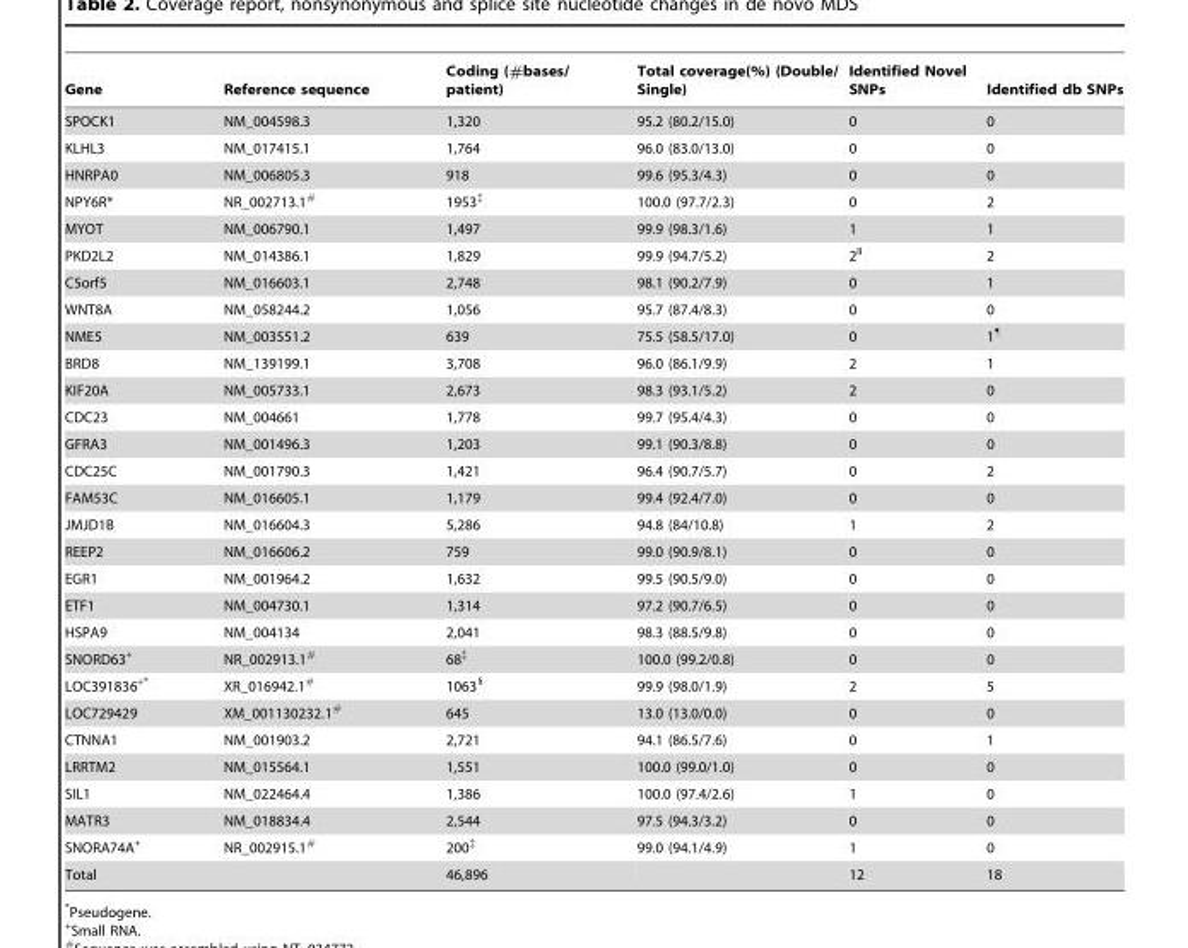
<table><thead><tr><td>Gene</td><td>Reference sequence</td><td>Coding (#bases/ patient)</td><td>Total coverage(%) (Double/ Single)</td><td>Identified Novel SNPs</td><td>Identified db SNPs</td></tr></thead><tbody><tr><td>SPOCK1</td><td>NM_004598.3</td><td>1,320</td><td>95.2 (80.2/15.0)</td><td>0</td><td>0</td></tr><tr><td>KLHL3</td><td>NM_017415.1</td><td>1,764</td><td>96.0 (83.0/13.0)</td><td>0</td><td>0</td></tr><tr><td>HNRPA0</td><td>NM_006805.3</td><td>918</td><td>99.6 (95.3/4.3)</td><td>0</td><td>0</td></tr><tr><td>NPY6R*</td><td>NR_002713.1#</td><td>1953‡</td><td>100.0 (97.7/2.3)</td><td>0</td><td>2</td></tr><tr><td>MYOT</td><td>NM_006790.1</td><td>1,497</td><td>99.9 (98.3/1.6)</td><td>1</td><td>1</td></tr><tr><td>PKD2L2</td><td>NM_014386.1</td><td>1,829</td><td>99.9 (94.7/5.2)</td><td>2<sup>II</sup></td><td>2</td></tr><tr><td>C5orf5</td><td>NM_016603.1</td><td>2,748</td><td>98.1 (90.2/7.9)</td><td>0</td><td>1</td></tr><tr><td>WNT8A</td><td>NM_058244.2</td><td>1,056</td><td>95.7 (87.4/8.3)</td><td>0</td><td>0</td></tr><tr><td>NME5</td><td>NM_003551.2</td><td>639</td><td>75.5 (58.5/17.0)</td><td>0</td><td>1¶</td></tr><tr><td>BRD8</td><td>NM_139199.1</td><td>3,708</td><td>96.0 (86.1/9.9)</td><td>2</td><td>1</td></tr><tr><td>KIF20A</td><td>NM_005733.1</td><td>2,673</td><td>98.3 (93.1/5.2)</td><td>2</td><td>0</td></tr><tr><td>CDC23</td><td>NM_004661</td><td>1,778</td><td>99.7 (95.4/4.3)</td><td>0</td><td>0</td></tr><tr><td>GFRA3</td><td>NM_001496.3</td><td>1,203</td><td>99.1 (90.3/8.8)</td><td>0</td><td>0</td></tr><tr><td>CDC25C</td><td>NM_001790.3</td><td>1,421</td><td>96.4 (90.7/5.7)</td><td>0</td><td>2</td></tr><tr><td>FAM53C</td><td>NM_016605.1</td><td>1,179</td><td>99.4 (92.4/7.0)</td><td>0</td><td>0</td></tr><tr><td>JMJD1B</td><td>NM_016604.3</td><td>5,286</td><td>94.8 (84/10.8)</td><td>1</td><td>2</td></tr><tr><td>REEP2</td><td>NM_016606.2</td><td>759</td><td>99.0 (90.9/8.1)</td><td>0</td><td>0</td></tr><tr><td>EGR1</td><td>NM_001964.2</td><td>1,632</td><td>99.5 (90.5/9.0)</td><td>0</td><td>0</td></tr><tr><td>ETF1</td><td>NM_004730.1</td><td>1,314</td><td>97.2 (90.7/6.5)</td><td>0</td><td>0</td></tr><tr><td>HSPA9</td><td>NM_004134</td><td>2,041</td><td>98.3 (88.5/9.8)</td><td>0</td><td>0</td></tr><tr><td>SNORD63+</td><td>NR_002913.1#</td><td>68‡</td><td>100.0 (99.2/0.8)</td><td>0</td><td>0</td></tr><tr><td>LOC391836+*</td><td>XR_016942.1#</td><td>1063§</td><td>99.9 (98.0/1.9)</td><td>2</td><td>5</td></tr><tr><td>LOC729429</td><td>XM_001130232.1#</td><td>645</td><td>13.0 (13.0/0.0)</td><td>0</td><td>0</td></tr><tr><td>CTNNA1</td><td>NM_001903.2</td><td>2,721</td><td>94.1 (86.5/7.6)</td><td>0</td><td>1</td></tr><tr><td>LRRTM2</td><td>NM_015564.1</td><td>1,551</td><td>100.0 (99.0/1.0)</td><td>0</td><td>0</td></tr><tr><td>SIL1</td><td>NM_022464.4</td><td>1,386</td><td>100.0 (97.4/2.6)</td><td>1</td><td>0</td></tr><tr><td>MATR3</td><td>NM_018834.4</td><td>2,544</td><td>97.5 (94.3/3.2)</td><td>0</td><td>0</td></tr><tr><td>SNORA74A+</td><td>NR_002915.1#</td><td>200‡</td><td>99.0 (94.1/4.9)</td><td>1</td><td>0</td></tr><tr><td>Total</td><td></td><td>46,896</td><td></td><td>12</td><td>18</td></tr></tbody></table>